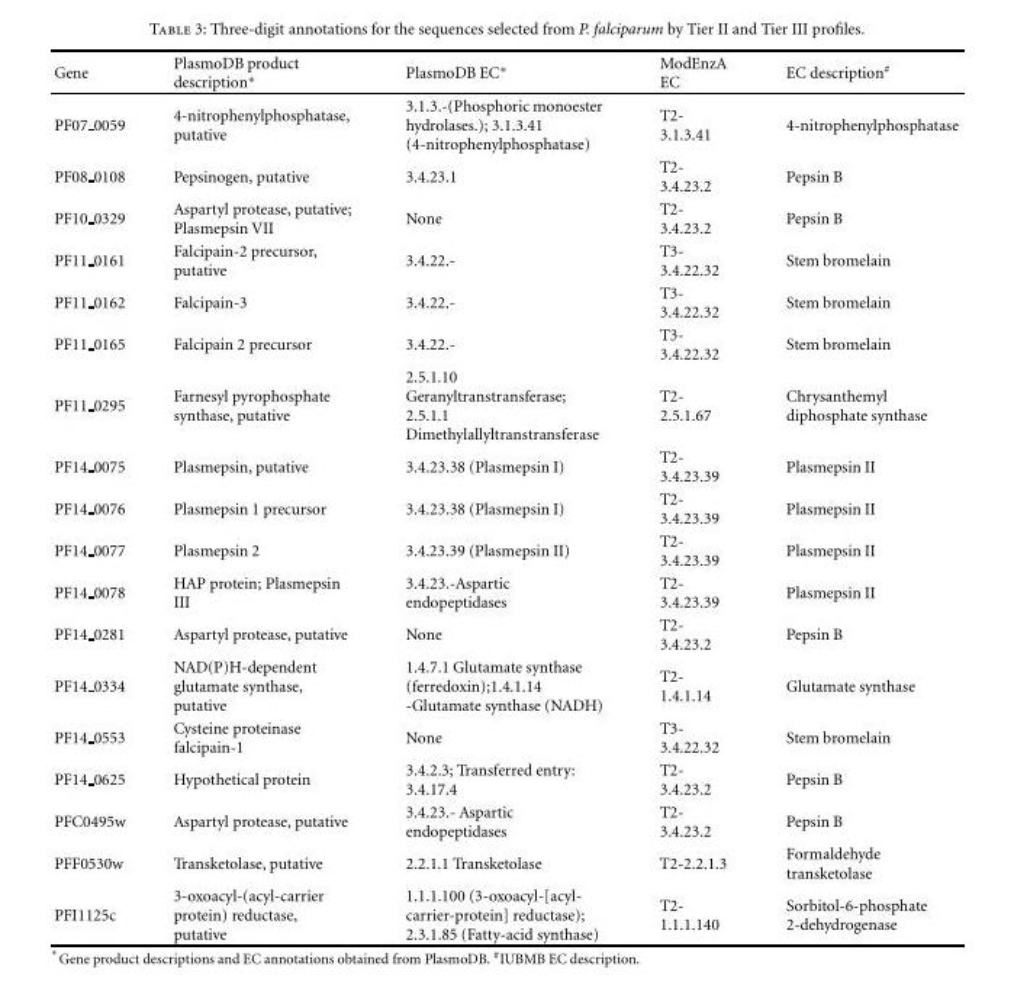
<table><thead><tr><td>Gene</td><td>PlasmoDB product description∗</td><td>PlasmoDB EC∗</td><td>ModEnzA EC</td><td>EC description<sup>#</sup></td></tr></thead><tbody><tr><td>PF07 0059</td><td>4-nitrophenylphosphatase, putative</td><td>3.1.3.-(Phosphoric monoester hydrolases.); 3.1.3.41 (4-nitrophenylphosphatase)</td><td>T2- 3.1.3.41</td><td>4-nitrophenylphosphatase</td></tr><tr><td>PF08 0108</td><td>Pepsinogen, putative</td><td>3.4.23.1</td><td>T2- 3.4.23.2</td><td>Pepsin B</td></tr><tr><td>PF10 0329</td><td>Aspartyl protease, putative; Plasmepsin VII</td><td>None</td><td>T2- 3.4.23.2</td><td>Pepsin B</td></tr><tr><td>PF11 0161</td><td>Falcipain-2 precursor, putative</td><td>3.4.22.-</td><td>T3- 3.4.22.32</td><td>Stem bromelain</td></tr><tr><td>PF11 0162</td><td>Falcipain-3</td><td>3.4.22.-</td><td>T3- 3.4.22.32</td><td>Stem bromelain</td></tr><tr><td>PF11 0165</td><td>Falcipain 2 precursor</td><td>3.4.22.-</td><td>T3- 3.4.22.32</td><td>Stem bromelain</td></tr><tr><td>PF11 0295</td><td>Farnesyl pyrophosphate synthase, putative</td><td>2.5.1.10 Geranyltranstransferase; 2.5.1.1 Dimethylallyltranstransferase</td><td>T2- 2.5.1.67</td><td>Chrysanthemyl diphosphate synthase</td></tr><tr><td>PF14 0075</td><td>Plasmepsin, putative</td><td>3.4.23.38 (Plasmepsin I)</td><td>T2- 3.4.23.39</td><td>Plasmepsin II</td></tr><tr><td>PF14 0076</td><td>Plasmepsin 1 precursor</td><td>3.4.23.38 (Plasmepsin I)</td><td>T2- 3.4.23.39</td><td>Plasmepsin II</td></tr><tr><td>PF14 0077</td><td>Plasmepsin 2</td><td>3.4.23.39 (Plasmepsin II)</td><td>T2- 3.4.23.39</td><td>Plasmepsin II</td></tr><tr><td>PF14 0078</td><td>HAP protein; Plasmepsin III</td><td>3.4.23.-Aspartic endopeptidases</td><td>T2- 3.4.23.39</td><td>Plasmepsin II</td></tr><tr><td>PF14 0281</td><td>Aspartyl protease, putative</td><td>None</td><td>T2- 3.4.23.2</td><td>Pepsin B</td></tr><tr><td>PF14 0334</td><td>NAD(P)H-dependent glutamate synthase, putative</td><td>1.4.7.1 Glutamate synthase (ferredoxin);1.4.1.14 -Glutamate synthase (NADH)</td><td>T2- 1.4.1.14</td><td>Glutamate synthase</td></tr><tr><td>PF14 0553</td><td>Cysteine proteinase falcipain-1</td><td>None</td><td>T3- 3.4.22.32</td><td>Stem bromelain</td></tr><tr><td>PF14 0625</td><td>Hypothetical protein</td><td>3.4.2.3; Transferred entry: 3.4.17.4</td><td>T2- 3.4.23.2</td><td>Pepsin B</td></tr><tr><td>PFC0495w</td><td>Aspartyl protease, putative</td><td>3.4.23.- Aspartic endopeptidases</td><td>T2- 3.4.23.2</td><td>Pepsin B</td></tr><tr><td>PFF0530w</td><td>Transketolase, putative</td><td>2.2.1.1 Transketolase</td><td>T2-2.2.1.3</td><td>Formaldehyde transketolase</td></tr><tr><td>PFI1125c</td><td>3-oxoacyl-(acyl-carrier protein) reductase, putative</td><td>1.1.1.100 (3-oxoacyl-[acyl- carrier-protein] reductase); 2.3.1.85 (Fatty-acid synthase)</td><td>T2- 1.1.1.140</td><td>Sorbitol-6-phosphate 2-dehydrogenase</td></tr></tbody></table>